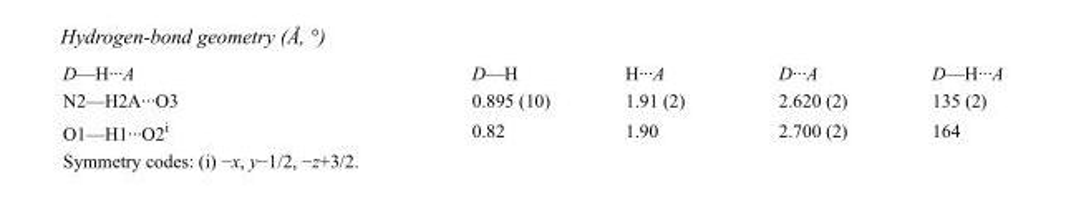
<table><tbody><tr><td>D—H···A</td><td>D—H</td><td>H···A</td><td>D···A</td><td>D—H···A</td></tr><tr><td>N2—H2A···O3</td><td>0.895 (10)</td><td>1.91 (2)</td><td>2.620 (2)</td><td>135 (2)</td></tr><tr><td>O1—H1···O2<sup>i</sup></td><td>0.82</td><td>1.90</td><td>2.700 (2)</td><td>164</td></tr></tbody></table>